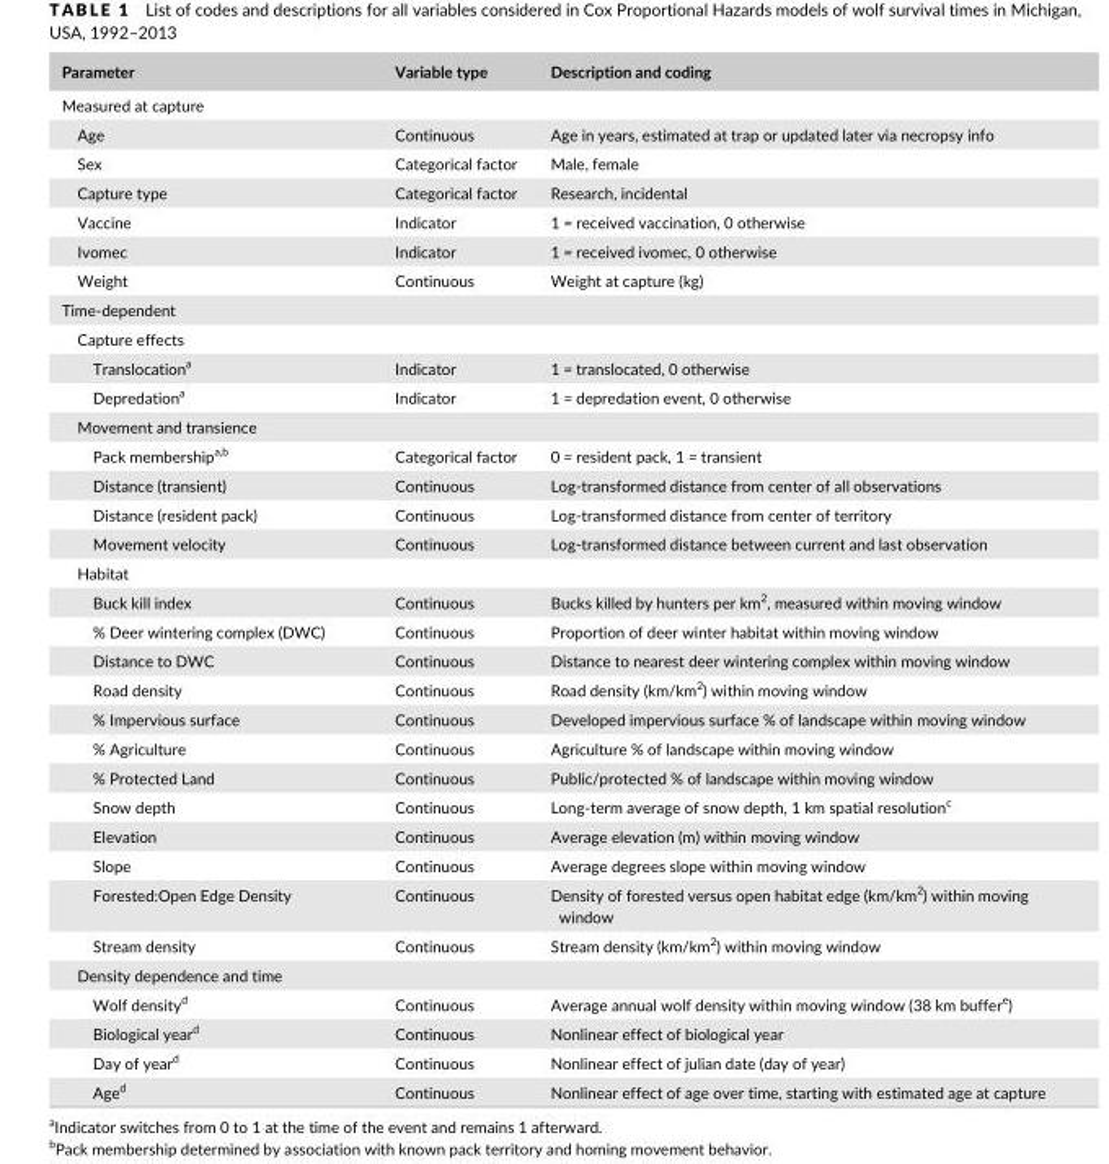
<table><thead><tr><td>Parameter</td><td>Variable type</td><td>Description and coding</td></tr></thead><tbody><tr><td colspan="3">Measured at capture</td></tr><tr><td>Age</td><td>Continuous</td><td>Age in years, estimated at trap or updated later via necropsy info</td></tr><tr><td>Sex</td><td>Categorical factor</td><td>Male, female</td></tr><tr><td>Capture type</td><td>Categorical factor</td><td>Research, incidental</td></tr><tr><td>Vaccine</td><td>Indicator</td><td>1 = received vaccination, 0 otherwise</td></tr><tr><td>Ivomec</td><td>Indicator</td><td>1 = received ivomec, 0 otherwise</td></tr><tr><td>Weight</td><td>Continuous</td><td>Weight at capture (kg)</td></tr><tr><td colspan="3">Time- dependent</td></tr><tr><td colspan="3">Capture effects</td></tr><tr><td>Translocation<sup>a</sup></td><td>Indicator</td><td>1 = translocated, 0 otherwise</td></tr><tr><td>Depredation<sup>a</sup></td><td>Indicator</td><td>1 = depredation event, 0 otherwise</td></tr><tr><td colspan="3">Movement and transience</td></tr><tr><td>Pack membershipa,b</td><td>Categorical factor</td><td>0 = resident pack, 1 = transient</td></tr><tr><td>Distance (transient)</td><td>Continuous</td><td>Log- transformed distance from center of all observations</td></tr><tr><td>Distance (resident pack)</td><td>Continuous</td><td>Log- transformed distance from center of territory</td></tr><tr><td>Movement velocity</td><td>Continuous</td><td>Log- transformed distance between current and last observation</td></tr><tr><td colspan="3">Habitat</td></tr><tr><td>Buck kill index</td><td>Continuous</td><td>Bucks killed by hunters per km<sup>2</sup>, measured within moving window</td></tr><tr><td>% Deer wintering complex (DWC)</td><td>Continuous</td><td>Proportion of deer winter habitat within moving window</td></tr><tr><td>Distance to DWC</td><td>Continuous</td><td>Distance to nearest deer wintering complex within moving window</td></tr><tr><td>Road density</td><td>Continuous</td><td>Road density (km/km<sup>2</sup>) within moving window</td></tr><tr><td>% Impervious surface</td><td>Continuous</td><td>Developed impervious surface % of landscape within moving window</td></tr><tr><td>% Agriculture</td><td>Continuous</td><td>Agriculture % of landscape within moving window</td></tr><tr><td>% Protected Land</td><td>Continuous</td><td>Public/protected % of landscape within moving window</td></tr><tr><td>Snow depth</td><td>Continuous</td><td>Long- term average of snow depth, 1 km spatial resolutionc</td></tr><tr><td>Elevation</td><td>Continuous</td><td>Average elevation (m) within moving window</td></tr><tr><td>Slope</td><td>Continuous</td><td>Average degrees slope within moving window</td></tr><tr><td>Forested:Open Edge Density</td><td>Continuous</td><td>Density of forested versus open habitat edge (km/km<sup>2</sup>) within moving window</td></tr><tr><td>Stream density</td><td>Continuous</td><td>Stream density (km/km<sup>2</sup>) within moving window</td></tr><tr><td colspan="3">Density dependence and time</td></tr><tr><td>Wolf densityd</td><td>Continuous</td><td>Average annual wolf density within moving window (38 km buffere)</td></tr><tr><td>Biological yeard</td><td>Continuous</td><td>Nonlinear effect of biological year</td></tr><tr><td>Day of yeard</td><td>Continuous</td><td>Nonlinear effect of julian date (day of year)</td></tr><tr><td>Aged</td><td>Continuous</td><td>Nonlinear effect of age over time, starting with estimated age at capture</td></tr></tbody></table>